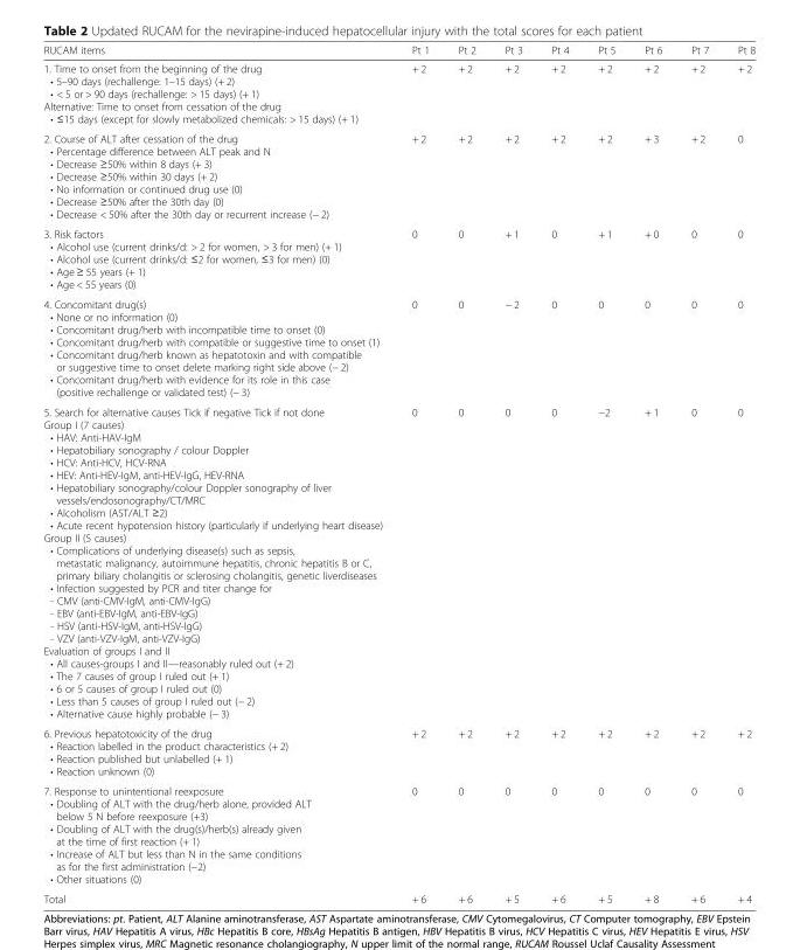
<table><thead><tr><td>RUCAM items</td><td>Pt 1</td><td>Pt 2</td><td>Pt 3</td><td>Pt 4</td><td>Pt 5</td><td>Pt 6</td><td>Pt 7</td><td>Pt 8</td></tr></thead><tbody><tr><td>1. Time to onset from the beginning of the drug • 5–90 days (rechallenge: 1–15 days) (+ 2) • &lt; 5 or &gt; 90 days (rechallenge: &gt; 15 days) (+ 1) Alternative: Time to onset from cessation of the drug • ≤15 days (except for slowly metabolized chemicals: &gt; 15 days) (+ 1)</td><td>+ 2</td><td>+ 2</td><td>+ 2</td><td>+ 2</td><td>+ 2</td><td>+ 2</td><td>+ 2</td><td>+ 2</td></tr><tr><td>2. Course of ALT after cessation of the drug • Percentage difference between ALT peak and N • Decrease ≥50% within 8 days (+ 3) • Decrease ≥50% within 30 days (+ 2) • No information or continued drug use (0) • Decrease ≥50% after the 30th day (0) • Decrease &lt; 50% after the 30th day or recurrent increase (− 2)</td><td>+ 2</td><td>+ 2</td><td>+ 2</td><td>+ 2</td><td>+ 2</td><td>+ 3</td><td>+ 2</td><td>0</td></tr><tr><td>3. Risk factors • Alcohol use (current drinks/d: &gt; 2 for women, &gt; 3 for men) (+ 1) • Alcohol use (current drinks/d: ≤2 for women, ≤3 for men) (0) • Age ≥ 55 years (+ 1) • Age &lt; 55 years (0)</td><td>0</td><td>0</td><td>+ 1</td><td>0</td><td>+ 1</td><td>+ 0</td><td>0</td><td>0</td></tr><tr><td>4. Concomitant drug(s) • None or no information (0) • Concomitant drug/herb with incompatible time to onset (0) • Concomitant drug/herb with compatible or suggestive time to onset (1) • Concomitant drug/herb known as hepatotoxin and with compatible or suggestive time to onset delete marking right side above (− 2) • Concomitant drug/herb with evidence for its role in this case (positive rechallenge or validated test) (− 3)</td><td>0</td><td>0</td><td>− 2</td><td>0</td><td>0</td><td>0</td><td>0</td><td>0</td></tr><tr><td>5. Search for alternative causes Tick if negative Tick if not done Group I (7 causes) • HAV: Anti-HAV-IgM • Hepatobiliary sonography / colour Doppler • HCV: Anti-HCV, HCV-RNA • HEV: Anti-HEV-IgM, anti-HEV-IgG, HEV-RNA • Hepatobiliary sonography/colour Doppler sonography of liver vessels/endosonography/CT/MRC • Alcoholism (AST/ALT ≥2) • Acute recent hypotension history (particularly if underlying heart disease) Group II (5 causes) • Complications of underlying disease(s) such as sepsis, metastatic malignancy, autoimmune hepatitis, chronic hepatitis B or C, primary biliary cholangitis or sclerosing cholangitis, genetic liverdiseases • Infection suggested by PCR and titer change for - CMV (anti-CMV-IgM, anti-CMV-IgG) - EBV (anti-EBV-IgM, anti-EBV-IgG) - HSV (anti-HSV-IgM, anti-HSV-IgG) - VZV (anti-VZV-IgM, anti-VZV-IgG) Evaluation of groups I and II • All causes-groups I and II—reasonably ruled out (+ 2) • The 7 causes of group I ruled out (+ 1) • 6 or 5 causes of group I ruled out (0) • Less than 5 causes of group I ruled out (− 2) • Alternative cause highly probable (− 3)</td><td>0</td><td>0</td><td>0</td><td>0</td><td>−2</td><td>+ 1</td><td>0</td><td>0</td></tr><tr><td>6. Previous hepatotoxicity of the drug • Reaction labelled in the product characteristics (+ 2) • Reaction published but unlabelled (+ 1) • Reaction unknown (0)</td><td>+ 2</td><td>+ 2</td><td>+ 2</td><td>+ 2</td><td>+ 2</td><td>+ 2</td><td>+ 2</td><td>+ 2</td></tr><tr><td>7. Response to unintentional reexposure • Doubling of ALT with the drug/herb alone, provided ALT below 5 N before reexposure (+3) • Doubling of ALT with the drug(s)/herb(s) already given at the time of first reaction (+ 1) • Increase of ALT but less than N in the same conditions as for the first administration (−2) • Other situations (0)</td><td>0</td><td>0</td><td>0</td><td>0</td><td>0</td><td>0</td><td>0</td><td>0</td></tr><tr><td>Total</td><td>+ 6</td><td>+ 6</td><td>+ 5</td><td>+ 6</td><td>+ 5</td><td>+ 8</td><td>+ 6</td><td>+ 4</td></tr></tbody></table>